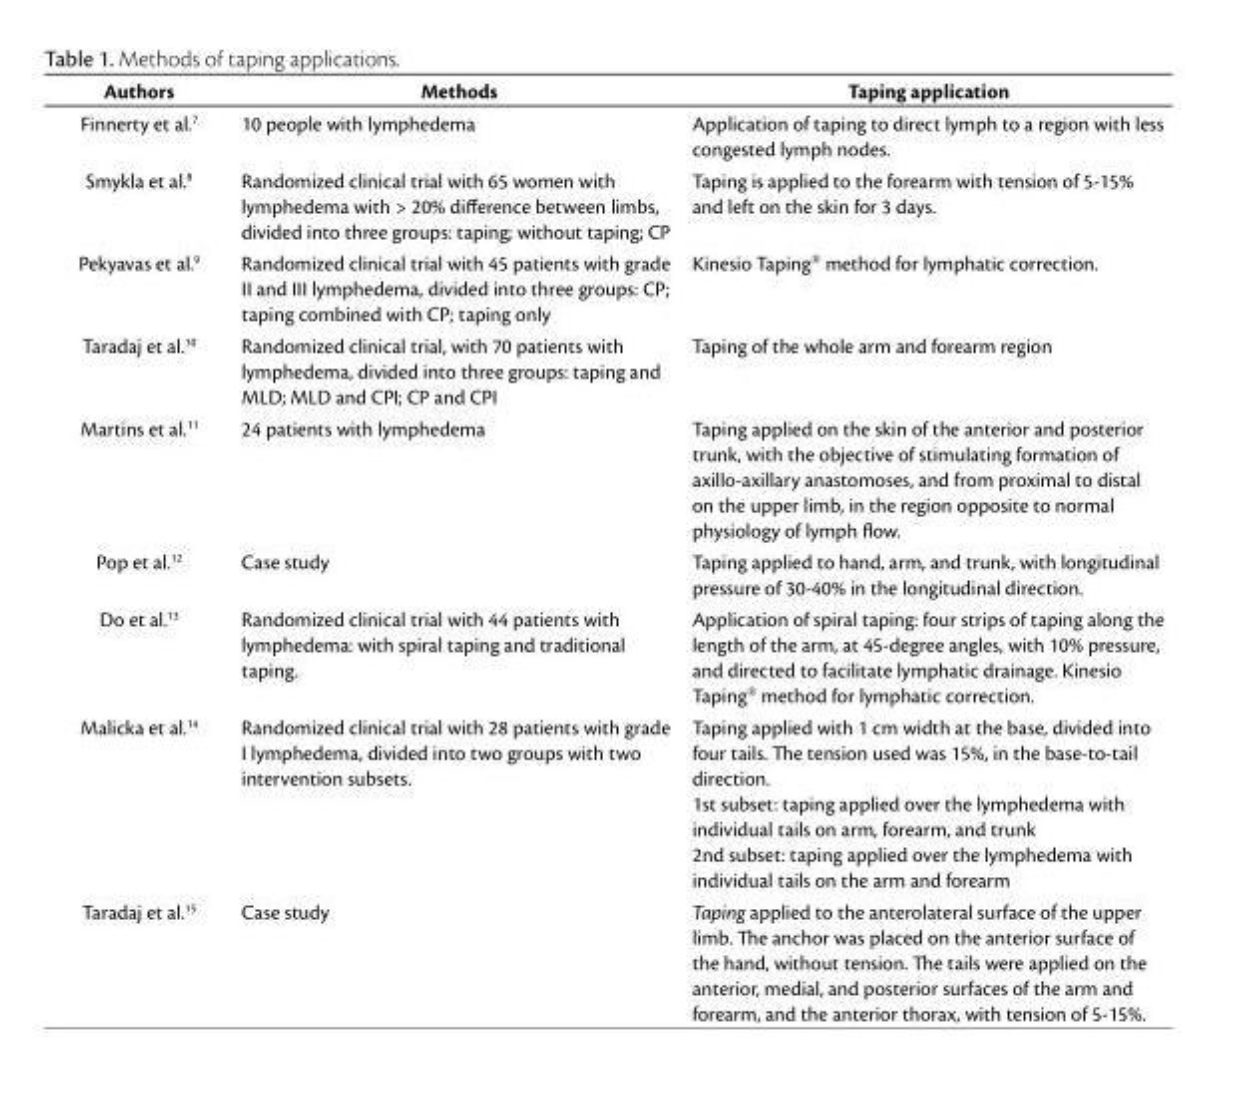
<table><thead><tr><td>Authors</td><td>Methods</td><td>Taping application</td></tr></thead><tbody><tr><td>Finnerty et al.7</td><td>10 people with lymphedema</td><td>Application of taping to direct lymph to a region with less congested lymph nodes.</td></tr><tr><td>Smykla et al.8</td><td>Randomized clinical trial with 65 women with lymphedema with &gt; 20% difference between limbs, divided into three groups: taping; without taping; CP</td><td>Taping is applied to the forearm with tension of 5-15% and left on the skin for 3 days.</td></tr><tr><td>Pekyavas et al.9</td><td>Randomized clinical trial with 45 patients with grade II and III lymphedema, divided into three groups: CP; taping combined with CP; taping only</td><td>Kinesio Taping® method for lymphatic correction.</td></tr><tr><td>Taradaj et al.10</td><td>Randomized clinical trial, with 70 patients with lymphedema, divided into three groups: taping and MLD; MLD and CPI; CP and CPI</td><td>Taping of the whole arm and forearm region</td></tr><tr><td>Martins et al.11</td><td>24 patients with lymphedema</td><td>Taping applied on the skin of the anterior and posterior trunk, with the objective of stimulating formation of axillo-axillary anastomoses, and from proximal to distal on the upper limb, in the region opposite to normal physiology of lymph flow.</td></tr><tr><td>Pop et al.12</td><td>Case study</td><td>Taping applied to hand, arm, and trunk, with longitudinal pressure of 30-40% in the longitudinal direction.</td></tr><tr><td>Do et al.13</td><td>Randomized clinical trial with 44 patients with lymphedema: with spiral taping and traditional taping.</td><td>Application of spiral taping: four strips of taping along the length of the arm, at 45-degree angles, with 10% pressure, and directed to facilitate lymphatic drainage. Kinesio Taping® method for lymphatic correction.</td></tr><tr><td>Malicka et al.14</td><td>Randomized clinical trial with 28 patients with grade I lymphedema, divided into two groups with two intervention subsets.</td><td>Taping applied with 1 cm width at the base, divided into four tails. The tension used was 15%, in the base-to-tail direction. 1st subset: taping applied over the lymphedema with individual tails on arm, forearm, and trunk 2nd subset: taping applied over the lymphedema with individual tails on the arm and forearm</td></tr><tr><td>Taradaj et al.15</td><td>Case study</td><td>Taping applied to the anterolateral surface of the upper limb. The anchor was placed on the anterior surface of the hand, without tension. The tails were applied on the anterior, medial, and posterior surfaces of the arm and forearm, and the anterior thorax, with tension of 5-15%.</td></tr></tbody></table>